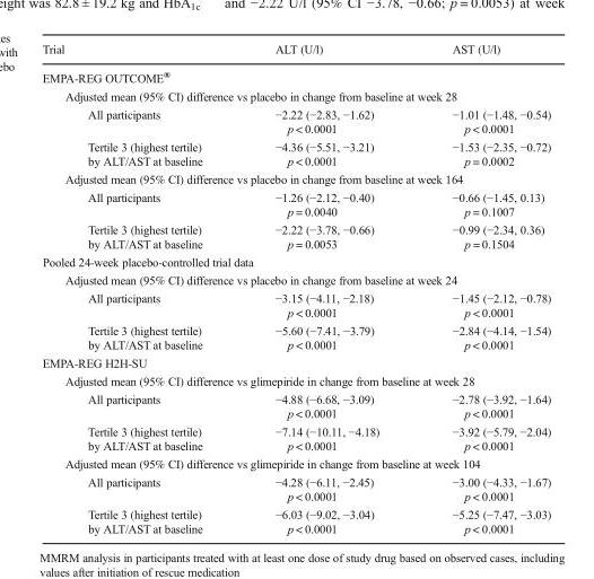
<table><thead><tr><td>Trial</td><td>ALT (U/l)</td><td>AST (U/l)</td></tr></thead><tbody><tr><td colspan="3">EMPA-REG OUTCOME<sup>®</sup></td></tr><tr><td colspan="3">Adjusted mean (95% CI) difference vs placebo in change from baseline at week 28</td></tr><tr><td>All participants</td><td>−2.22 (−2.83, −1.62) p &lt; 0.0001</td><td>−1.01 (−1.48, −0.54) p &lt; 0.0001</td></tr><tr><td>Tertile 3 (highest tertile) by ALT/AST at baseline</td><td>−4.36 (−5.51, −3.21) p &lt; 0.0001</td><td>−1.53 (−2.35, −0.72) p = 0.0002</td></tr><tr><td colspan="3">Adjusted mean (95% CI) difference vs placebo in change from baseline at week 164</td></tr><tr><td>All participants</td><td>−1.26 (−2.12, −0.40) p = 0.0040</td><td>−0.66 (−1.45, 0.13) p = 0.1007</td></tr><tr><td>Tertile 3 (highest tertile) by ALT/AST at baseline</td><td>−2.22 (−3.78, −0.66) p = 0.0053</td><td>−0.99 (−2.34, 0.36) p = 0.1504</td></tr><tr><td colspan="3">Pooled 24-week placebo-controlled trial data</td></tr><tr><td colspan="3">Adjusted mean (95% CI) difference vs placebo in change from baseline at week 24</td></tr><tr><td>All participants</td><td>−3.15 (−4.11, −2.18) p &lt; 0.0001</td><td>−1.45 (−2.12, −0.78) p &lt; 0.0001</td></tr><tr><td>Tertile 3 (highest tertile) by ALT/AST at baseline</td><td>−5.60 (−7.41, −3.79) p &lt; 0.0001</td><td>−2.84 (−4.14, −1.54) p &lt; 0.0001</td></tr><tr><td colspan="3">EMPA-REG H2H-SU</td></tr><tr><td colspan="3">Adjusted mean (95% CI) difference vs glimepiride in change from baseline at week 28</td></tr><tr><td>All participants</td><td>−4.88 (−6.68, −3.09) p &lt; 0.0001</td><td>−2.78 (−3.92, −1.64) p &lt; 0.0001</td></tr><tr><td>Tertile 3 (highest tertile) by ALT/AST at baseline</td><td>−7.14 (−10.11, −4.18) p &lt; 0.0001</td><td>−3.92 (−5.79, −2.04) p &lt; 0.0001</td></tr><tr><td colspan="3">Adjusted mean (95% CI) difference vs glimepiride in change from baseline at week 104</td></tr><tr><td>All participants</td><td>−4.28 (−6.11, −2.45) p &lt; 0.0001</td><td>−3.00 (−4.33, −1.67) p &lt; 0.0001</td></tr><tr><td>Tertile 3 (highest tertile) by ALT/AST at baseline</td><td>−6.03 (−9.02, −3.04) p &lt; 0.0001</td><td>−5.25 (−7.47, −3.03) p &lt; 0.0001</td></tr></tbody></table>